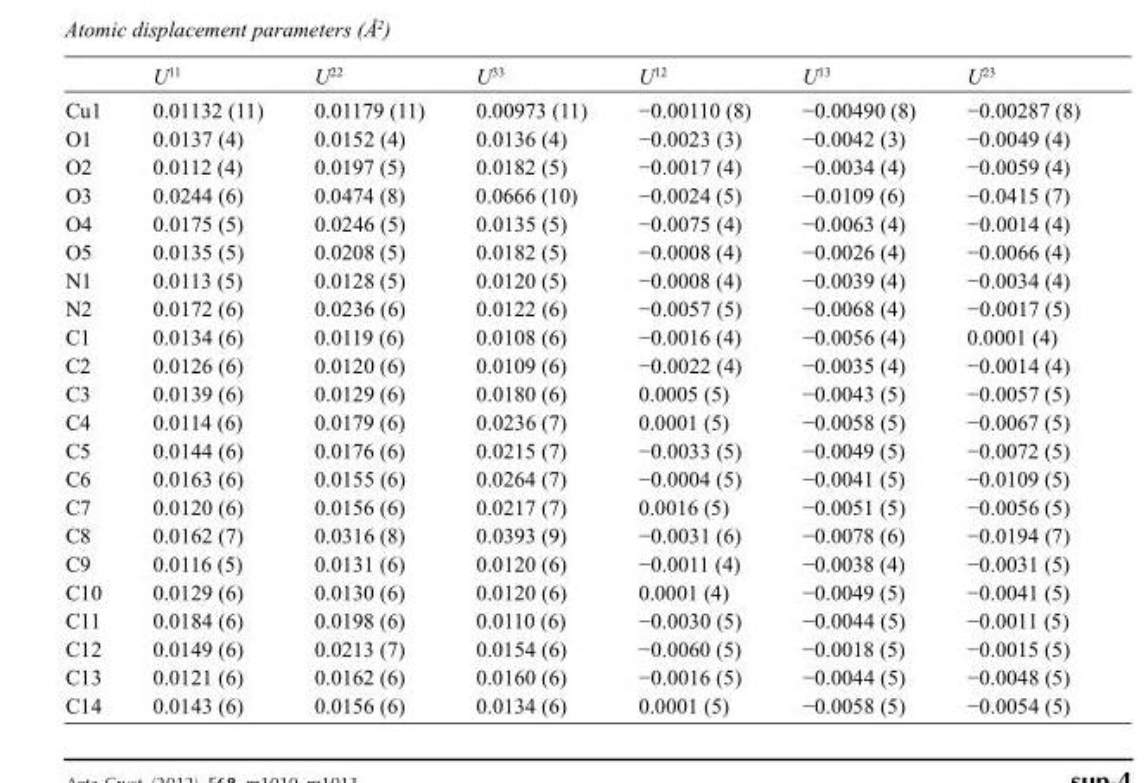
<table><thead><tr><td></td><td>U<sup>11</sup></td><td>U<sup>22</sup></td><td>U<sup>33</sup></td><td>U<sup>12</sup></td><td>U<sup>13</sup></td><td>U<sup>23</sup></td></tr></thead><tbody><tr><td>Cu1</td><td>0.01132 (11)</td><td>0.01179 (11)</td><td>0.00973 (11)</td><td>−0.00110 (8)</td><td>−0.00490 (8)</td><td>−0.00287 (8)</td></tr><tr><td>O1</td><td>0.0137 (4)</td><td>0.0152 (4)</td><td>0.0136 (4)</td><td>−0.0023 (3)</td><td>−0.0042 (3)</td><td>−0.0049 (4)</td></tr><tr><td>O2</td><td>0.0112 (4)</td><td>0.0197 (5)</td><td>0.0182 (5)</td><td>−0.0017 (4)</td><td>−0.0034 (4)</td><td>−0.0059 (4)</td></tr><tr><td>O3</td><td>0.0244 (6)</td><td>0.0474 (8)</td><td>0.0666 (10)</td><td>−0.0024 (5)</td><td>−0.0109 (6)</td><td>−0.0415 (7)</td></tr><tr><td>O4</td><td>0.0175 (5)</td><td>0.0246 (5)</td><td>0.0135 (5)</td><td>−0.0075 (4)</td><td>−0.0063 (4)</td><td>−0.0014 (4)</td></tr><tr><td>O5</td><td>0.0135 (5)</td><td>0.0208 (5)</td><td>0.0182 (5)</td><td>−0.0008 (4)</td><td>−0.0026 (4)</td><td>−0.0066 (4)</td></tr><tr><td>N1</td><td>0.0113 (5)</td><td>0.0128 (5)</td><td>0.0120 (5)</td><td>−0.0008 (4)</td><td>−0.0039 (4)</td><td>−0.0034 (4)</td></tr><tr><td>N2</td><td>0.0172 (6)</td><td>0.0236 (6)</td><td>0.0122 (6)</td><td>−0.0057 (5)</td><td>−0.0068 (4)</td><td>−0.0017 (5)</td></tr><tr><td>C1</td><td>0.0134 (6)</td><td>0.0119 (6)</td><td>0.0108 (6)</td><td>−0.0016 (4)</td><td>−0.0056 (4)</td><td>0.0001 (4)</td></tr><tr><td>C2</td><td>0.0126 (6)</td><td>0.0120 (6)</td><td>0.0109 (6)</td><td>−0.0022 (4)</td><td>−0.0035 (4)</td><td>−0.0014 (4)</td></tr><tr><td>C3</td><td>0.0139 (6)</td><td>0.0129 (6)</td><td>0.0180 (6)</td><td>0.0005 (5)</td><td>−0.0043 (5)</td><td>−0.0057 (5)</td></tr><tr><td>C4</td><td>0.0114 (6)</td><td>0.0179 (6)</td><td>0.0236 (7)</td><td>0.0001 (5)</td><td>−0.0058 (5)</td><td>−0.0067 (5)</td></tr><tr><td>C5</td><td>0.0144 (6)</td><td>0.0176 (6)</td><td>0.0215 (7)</td><td>−0.0033 (5)</td><td>−0.0049 (5)</td><td>−0.0072 (5)</td></tr><tr><td>C6</td><td>0.0163 (6)</td><td>0.0155 (6)</td><td>0.0264 (7)</td><td>−0.0004 (5)</td><td>−0.0041 (5)</td><td>−0.0109 (5)</td></tr><tr><td>C7</td><td>0.0120 (6)</td><td>0.0156 (6)</td><td>0.0217 (7)</td><td>0.0016 (5)</td><td>−0.0051 (5)</td><td>−0.0056 (5)</td></tr><tr><td>C8</td><td>0.0162 (7)</td><td>0.0316 (8)</td><td>0.0393 (9)</td><td>−0.0031 (6)</td><td>−0.0078 (6)</td><td>−0.0194 (7)</td></tr><tr><td>C9</td><td>0.0116 (5)</td><td>0.0131 (6)</td><td>0.0120 (6)</td><td>−0.0011 (4)</td><td>−0.0038 (4)</td><td>−0.0031 (5)</td></tr><tr><td>C10</td><td>0.0129 (6)</td><td>0.0130 (6)</td><td>0.0120 (6)</td><td>0.0001 (4)</td><td>−0.0049 (5)</td><td>−0.0041 (5)</td></tr><tr><td>C11</td><td>0.0184 (6)</td><td>0.0198 (6)</td><td>0.0110 (6)</td><td>−0.0030 (5)</td><td>−0.0044 (5)</td><td>−0.0011 (5)</td></tr><tr><td>C12</td><td>0.0149 (6)</td><td>0.0213 (7)</td><td>0.0154 (6)</td><td>−0.0060 (5)</td><td>−0.0018 (5)</td><td>−0.0015 (5)</td></tr><tr><td>C13</td><td>0.0121 (6)</td><td>0.0162 (6)</td><td>0.0160 (6)</td><td>−0.0016 (5)</td><td>−0.0044 (5)</td><td>−0.0048 (5)</td></tr><tr><td>C14</td><td>0.0143 (6)</td><td>0.0156 (6)</td><td>0.0134 (6)</td><td>0.0001 (5)</td><td>−0.0058 (5)</td><td>−0.0054 (5)</td></tr></tbody></table>